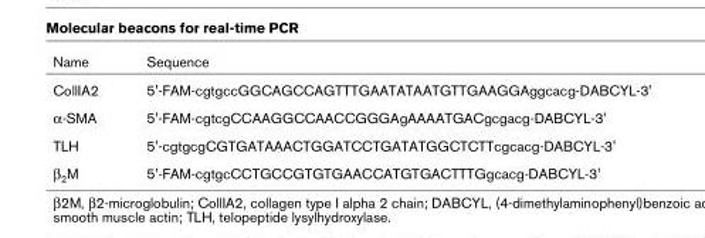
<table><thead><tr><td>Name</td><td>Sequence</td></tr></thead><tbody><tr><td>CollIA2</td><td>5&#x27;-FAM-cgtgccGGCAGCCAGTTTGAATATAATGTTGAAGGAggcacg-DABCYL-3&#x27;</td></tr><tr><td>α-SMA</td><td>5&#x27;-FAM-cgtcgCCAAGGCCAACCGGGAgAAAATGACgcgacg-DABCYL-3&#x27;</td></tr><tr><td>TLH</td><td>5&#x27;-cgtgcgCGTGATAAACTGGATCCTGATATGGCTCTTcgcacg-DABCYL-3&#x27;</td></tr><tr><td>β2M</td><td>5&#x27;-FAM-cgtgcCCTGCCGTGTGAACCATGTGACTTTGgcacg-DABCYL-3&#x27;</td></tr></tbody></table>